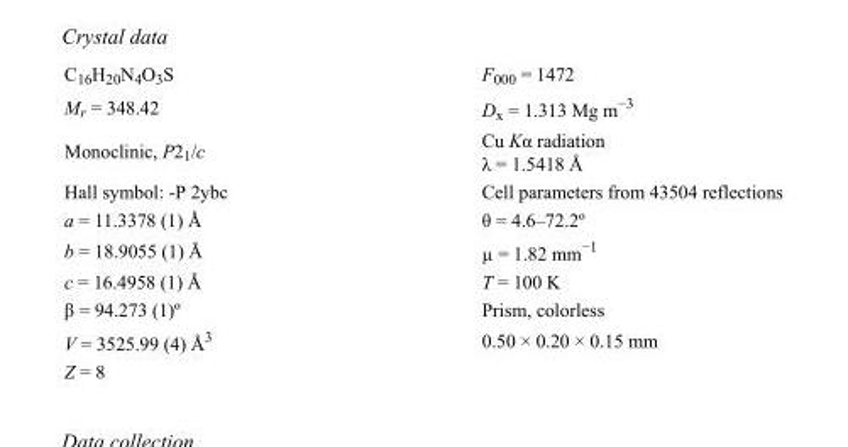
<table><tbody><tr><td>C<sub>16</sub>H<sub>20</sub>N<sub>4</sub>O<sub>3</sub>S</td><td>F000 = 1472</td></tr><tr><td>M<sub>r</sub> = 348.42</td><td>D<sub>x</sub> = 1.313 Mg m<sup>−3</sup></td></tr><tr><td>Monoclinic, P2<sub>1</sub>/c</td><td>Cu Kα radiation λ = 1.5418 Å</td></tr><tr><td>Hall symbol: -P 2ybc</td><td>Cell parameters from 43504 reflections</td></tr><tr><td>a = 11.3378 (1) Å</td><td>θ = 4.6–72.2º</td></tr><tr><td>b = 18.9055 (1) Å</td><td>µ = 1.82 mm<sup>−1</sup></td></tr><tr><td>c = 16.4958 (1) Å</td><td>T = 100 K</td></tr><tr><td>β = 94.273 (1)º</td><td>Prism, colorless</td></tr><tr><td>V = 3525.99 (4) Å<sup>3</sup></td><td>0.50 × 0.20 × 0.15 mm</td></tr><tr><td>Z = 8</td><td></td></tr></tbody></table>